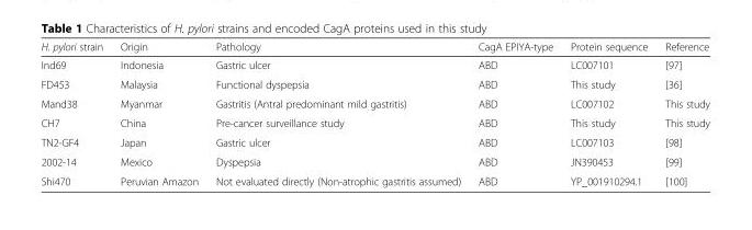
<table><thead><tr><td>H. pylori strain</td><td>Origin</td><td>Pathology</td><td>CagA EPIYA-type</td><td>Protein sequence</td><td>Reference</td></tr></thead><tbody><tr><td>Ind69</td><td>Indonesia</td><td>Gastric ulcer</td><td>ABD</td><td>LC007101</td><td>[97]</td></tr><tr><td>FD453</td><td>Malaysia</td><td>Functional dyspepsia</td><td>ABD</td><td>This study</td><td>[36]</td></tr><tr><td>Mand38</td><td>Myanmar</td><td>Gastritis (Antral predominant mild gastritis)</td><td>ABD</td><td>LC007102</td><td>This study</td></tr><tr><td>CH7</td><td>China</td><td>Pre-cancer surveillance study</td><td>ABD</td><td>This study</td><td>This study</td></tr><tr><td>TN2-GF4</td><td>Japan</td><td>Gastric ulcer</td><td>ABD</td><td>LC007103</td><td>[98]</td></tr><tr><td>2002-14</td><td>Mexico</td><td>Dyspepsia</td><td>ABD</td><td>JN390453</td><td>[99]</td></tr><tr><td>Shi470</td><td>Peruvian Amazon</td><td>Not evaluated directly (Non-atrophic gastritis assumed)</td><td>ABD</td><td>YP_001910294.1</td><td>[100]</td></tr></tbody></table>